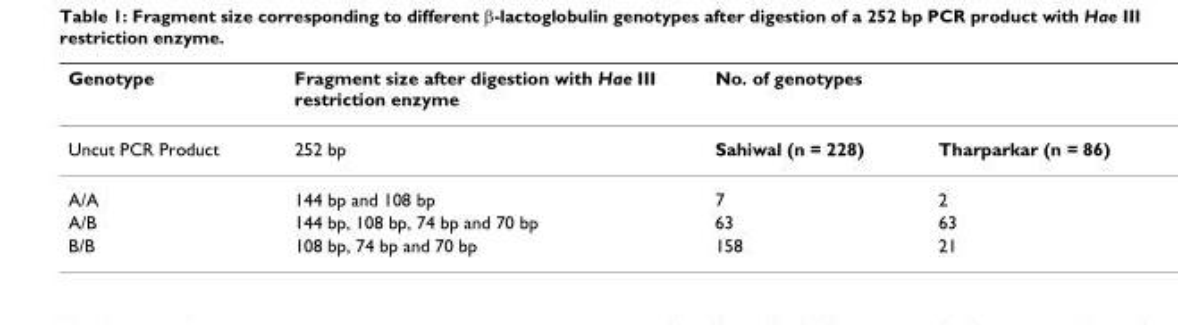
<table><thead><tr><td rowspan="2">Genotype Uncut PCR Product</td><td rowspan="2">Fragment size after digestion with Hae III restriction enzyme 252 bp</td><td colspan="2">No. of genotypes</td></tr><tr><td>Sahiwal (n = 228)</td><td>Tharparkar (n = 86)</td></tr></thead><tbody><tr><td>A/A</td><td>144 bp and 108 bp</td><td>7</td><td>2</td></tr><tr><td>A/B</td><td>144 bp, 108 bp, 74 bp and 70 bp</td><td>63</td><td>63</td></tr><tr><td>B/B</td><td>108 bp, 74 bp and 70 bp</td><td>158</td><td>21</td></tr></tbody></table>